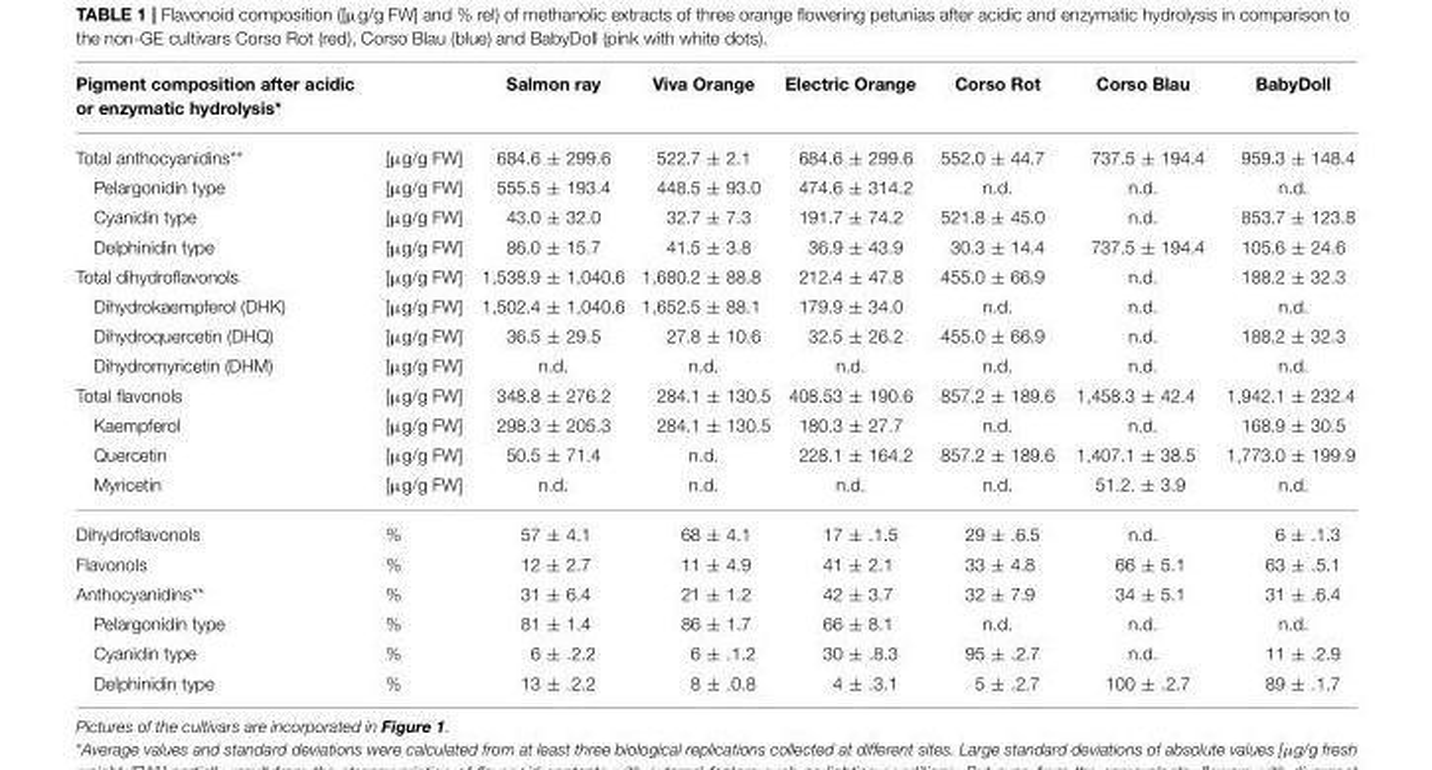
<table><thead><tr><td>Pigment composition after acidic or enzymatic hydrolysis*</td><td></td><td>Salmon ray</td><td>Viva Orange</td><td>Electric Orange</td><td>Corso Rot</td><td>Corso Blau</td><td>BabyDoll</td></tr></thead><tbody><tr><td>Total anthocyanidins**</td><td>[µg/g FW]</td><td>684.6 ± 299.6</td><td>522.7 ± 2.1</td><td>684.6 ± 299.6</td><td>552.0 ± 44.7</td><td>737.5 ± 194.4</td><td>959.3 ± 148.4</td></tr><tr><td>Pelargonidin type</td><td>[µg/g FW]</td><td>555.5 ± 193.4</td><td>448.5 ± 93.0</td><td>474.6 ± 314.2</td><td>n.d.</td><td>n.d.</td><td>n.d.</td></tr><tr><td>Cyanidin type</td><td>[µg/g FW]</td><td>43.0 ± 32.0</td><td>32.7 ± 7.3</td><td>191.7 ± 74.2</td><td>521.8 ± 45.0</td><td>n.d.</td><td>853.7 ± 123.8</td></tr><tr><td>Delphinidin type</td><td>[µg/g FW]</td><td>86.0 ± 15.7</td><td>41.5 ± 3.8</td><td>36.9 ± 43.9</td><td>30.3 ± 14.4</td><td>737.5 ± 194.4</td><td>105.6 ± 24.6</td></tr><tr><td>Total dihydroflavonols</td><td>[µg/g FW]</td><td>1,538.9 ± 1,040.6</td><td>1,680.2 ± 88.8</td><td>212.4 ± 47.8</td><td>455.0 ± 66.9</td><td>n.d.</td><td>188.2 ± 32.3</td></tr><tr><td>Dihydrokaempferol (DHK)</td><td>[µg/g FW]</td><td>1,502.4 ± 1,040.6</td><td>1,652.5 ± 88.1</td><td>179.9 ± 34.0</td><td>n.d.</td><td>n.d.</td><td>n.d.</td></tr><tr><td>Dihydroquercetin (DHQ)</td><td>[µg/g FW]</td><td>36.5 ± 29.5</td><td>27.8 ± 10.6</td><td>32.5 ± 26.2</td><td>455.0 ± 66.9</td><td>n.d.</td><td>188.2 ± 32.3</td></tr><tr><td>Dihydromyricetin (DHM)</td><td>[µg/g FW]</td><td>n.d.</td><td>n.d.</td><td>n.d.</td><td>n.d.</td><td>n.d.</td><td>n.d.</td></tr><tr><td>Total flavonols</td><td>[µg/g FW]</td><td>348.8 ± 276.2</td><td>284.1 ± 130.5</td><td>408.53 ± 190.6</td><td>857.2 ± 189.6</td><td>1,458.3 ± 42.4</td><td>1,942.1 ± 232.4</td></tr><tr><td>Kaempferol</td><td>[µg/g FW]</td><td>298.3 ± 205.3</td><td>284.1 ± 130.5</td><td>180.3 ± 27.7</td><td>n.d.</td><td>n.d.</td><td>168.9 ± 30.5</td></tr><tr><td>Quercetin</td><td>[µg/g FW]</td><td>50.5 ± 71.4</td><td>n.d.</td><td>228.1 ± 164.2</td><td>857.2 ± 189.6</td><td>1,407.1 ± 38.5</td><td>1,773.0 ± 199.9</td></tr><tr><td>Myricetin</td><td>[µg/g FW]</td><td>n.d.</td><td>n.d.</td><td>n.d.</td><td>n.d.</td><td>51.2. ± 3.9</td><td>n.d.</td></tr><tr><td>Dihydroflavonols</td><td>%</td><td>57 ± 4.1</td><td>68 ± 4.1</td><td>17 ± .1.5</td><td>29 ± .6.5</td><td>n.d.</td><td>6 ± .1.3</td></tr><tr><td>Flavonols</td><td>%</td><td>12 ± 2.7</td><td>11 ± 4.9</td><td>41 ± 2.1</td><td>33 ± 4.8</td><td>66 ± 5.1</td><td>63 ± .5.1</td></tr><tr><td>Anthocyanidins**</td><td>%</td><td>31 ± 6.4</td><td>21 ± 1.2</td><td>42 ± 3.7</td><td>32 ± 7.9</td><td>34 ± 5.1</td><td>31 ± .6.4</td></tr><tr><td>Pelargonidin type</td><td>%</td><td>81 ± 1.4</td><td>86 ± 1.7</td><td>66 ± 8.1</td><td>n.d.</td><td>n.d.</td><td>n.d.</td></tr><tr><td>Cyanidin type</td><td>%</td><td>6 ± .2.2</td><td>6 ± .1.2</td><td>30 ± .8.3</td><td>95 ± .2.7</td><td>n.d.</td><td>11 ± .2.9</td></tr><tr><td>Delphinidin type</td><td>%</td><td>13 ± .2.2</td><td>8 ± .0.8</td><td>4 ± .3.1</td><td>5 ± .2.7</td><td>100 ± .2.7</td><td>89 ± .1.7</td></tr></tbody></table>